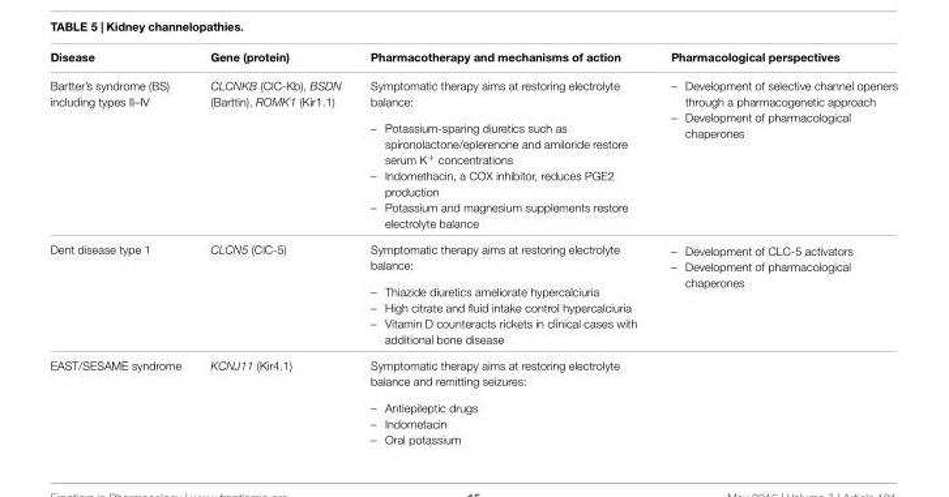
<table><thead><tr><td>Disease</td><td>Gene (protein)</td><td>Pharmacotherapy and mechanisms of action</td><td>Pharmacological perspectives</td></tr></thead><tbody><tr><td>Bartter’s syndrome (BS) including types II–IV</td><td>CLCNKB (ClC-Kb), BSDN (Barttin), ROMK1 (Kir1.1)</td><td>Symptomatic therapy aims at restoring electrolyte balance: – Potassium-sparing diuretics such as spironolactone/eplerenone and amiloride restore serum K<sup>+</sup> concentrations – Indomethacin, a COX inhibitor, reduces PGE2 production – Potassium and magnesium supplements restore electrolyte balance</td><td>– Development of selective channel openers through a pharmacogenetic approach – Development of pharmacological chaperones</td></tr><tr><td>Dent disease type 1</td><td>CLCN5 (ClC-5)</td><td>Symptomatic therapy aims at restoring electrolyte balance: – Thiazide diuretics ameliorate hypercalciuria – High citrate and fluid intake control hypercalciuria – Vitamin D counteracts rickets in clinical cases with additional bone disease</td><td>– Development of CLC-5 activators – Development of pharmacological chaperones</td></tr><tr><td>EAST/SESAME syndrome</td><td>KCNJ11 (Kir4.1)</td><td>Symptomatic therapy aims at restoring electrolyte balance and remitting seizures: – Antiepileptic drugs – Indometacin – Oral potassium</td><td></td></tr></tbody></table>